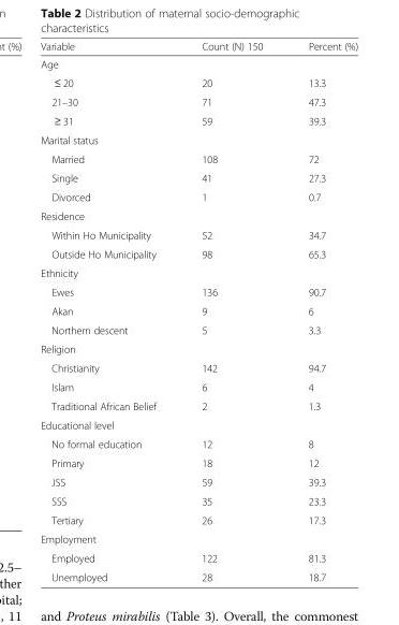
<table><thead><tr><td>Variable</td><td>Count (N) 150</td><td>Percent (%)</td></tr></thead><tbody><tr><td colspan="3">Age</td></tr><tr><td>≤ 20</td><td>20</td><td>13.3</td></tr><tr><td>21–30</td><td>71</td><td>47.3</td></tr><tr><td>≥ 31</td><td>59</td><td>39.3</td></tr><tr><td colspan="3">Marital status</td></tr><tr><td>Married</td><td>108</td><td>72</td></tr><tr><td>Single</td><td>41</td><td>27.3</td></tr><tr><td>Divorced</td><td>1</td><td>0.7</td></tr><tr><td colspan="3">Residence</td></tr><tr><td>Within Ho Municipality</td><td>52</td><td>34.7</td></tr><tr><td>Outside Ho Municipality</td><td>98</td><td>65.3</td></tr><tr><td colspan="3">Ethnicity</td></tr><tr><td>Ewes</td><td>136</td><td>90.7</td></tr><tr><td>Akan</td><td>9</td><td>6</td></tr><tr><td>Northern descent</td><td>5</td><td>3.3</td></tr><tr><td colspan="3">Religion</td></tr><tr><td>Christianity</td><td>142</td><td>94.7</td></tr><tr><td>Islam</td><td>6</td><td>4</td></tr><tr><td>Traditional African Belief</td><td>2</td><td>1.3</td></tr><tr><td colspan="3">Educational level</td></tr><tr><td>No formal education</td><td>12</td><td>8</td></tr><tr><td>Primary</td><td>18</td><td>12</td></tr><tr><td>JSS</td><td>59</td><td>39.3</td></tr><tr><td>SSS</td><td>35</td><td>23.3</td></tr><tr><td>Tertiary</td><td>26</td><td>17.3</td></tr><tr><td colspan="3">Employment</td></tr><tr><td>Employed</td><td>122</td><td>81.3</td></tr><tr><td>Unemployed</td><td>28</td><td>18.7</td></tr></tbody></table>